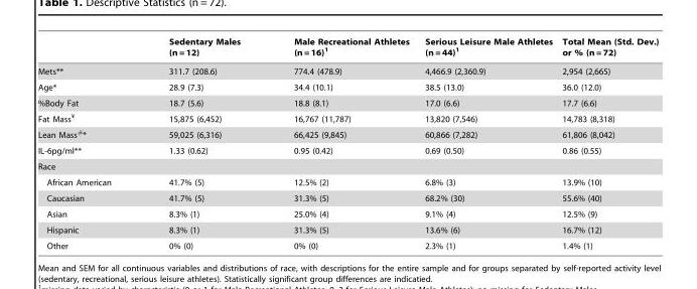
<table><thead><tr><td></td><td>Sedentary Males (n = 12)</td><td>Male Recreational Athletes (n = 16)<sup>1</sup></td><td>Serious Leisure Male Athletes (n = 44)<sup>1</sup></td><td>Total Mean (Std. Dev.) or % (n = 72)</td></tr></thead><tbody><tr><td>Mets**</td><td>311.7 (208.6)</td><td>774.4 (478.9)</td><td>4,466.9 (2,360.9)</td><td>2,954 (2,665)</td></tr><tr><td>Age*</td><td>28.9 (7.3)</td><td>34.4 (10.1)</td><td>38.5 (13.0)</td><td>36.0 (12.0)</td></tr><tr><td>%Body Fat</td><td>18.7 (5.6)</td><td>18.8 (8.1)</td><td>17.0 (6.6)</td><td>17.7 (6.6)</td></tr><tr><td>Fat Mass¥</td><td>15,875 (6,452)</td><td>16,767 (11,787)</td><td>13,820 (7,546)</td><td>14,783 (8,318)</td></tr><tr><td>Lean Mass#*</td><td>59,025 (6,316)</td><td>66,425 (9,845)</td><td>60,866 (7,282)</td><td>61,806 (8,042)</td></tr><tr><td>IL-6pg/ml**</td><td>1.33 (0.62)</td><td>0.95 (0.42)</td><td>0.69 (0.50)</td><td>0.86 (0.55)</td></tr><tr><td colspan="5">Race</td></tr><tr><td>African American</td><td>41.7% (5)</td><td>12.5% (2)</td><td>6.8% (3)</td><td>13.9% (10)</td></tr><tr><td>Caucasian</td><td>41.7% (5)</td><td>31.3% (5)</td><td>68.2% (30)</td><td>55.6% (40)</td></tr><tr><td>Asian</td><td>8.3% (1)</td><td>25.0% (4)</td><td>9.1% (4)</td><td>12.5% (9)</td></tr><tr><td>Hispanic</td><td>8.3% (1)</td><td>31.3% (5)</td><td>13.6% (6)</td><td>16.7% (12)</td></tr><tr><td>Other</td><td>0% (0)</td><td>0% (0)</td><td>2.3% (1)</td><td>1.4% (1)</td></tr></tbody></table>